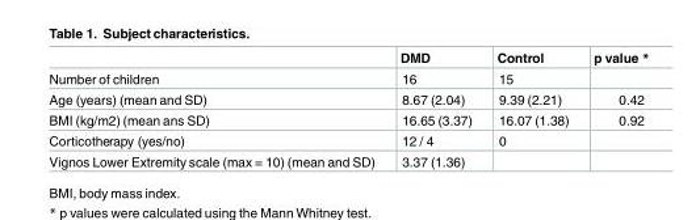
<table><thead><tr><td></td><td>DMD</td><td>Control</td><td>p value *</td></tr></thead><tbody><tr><td>Number of children</td><td>16</td><td>15</td><td></td></tr><tr><td>Age (years) (mean and SD)</td><td>8.67 (2.04)</td><td>9.39 (2.21)</td><td>0.42</td></tr><tr><td>BMI (kg/m2) (mean ans SD)</td><td>16.65 (3.37)</td><td>16.07 (1.38)</td><td>0.92</td></tr><tr><td>Corticotherapy (yes/no)</td><td>12 / 4</td><td>0</td><td></td></tr><tr><td>Vignos Lower Extremity scale (max = 10) (mean and SD)</td><td>3.37 (1.36)</td><td></td><td></td></tr></tbody></table>